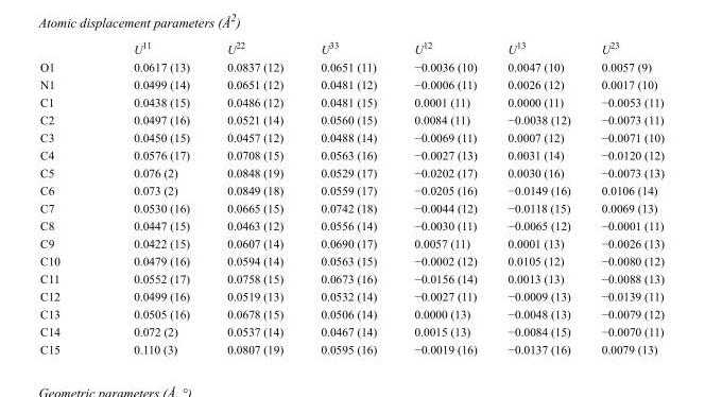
<table><thead><tr><td></td><td>U<sup>11</sup></td><td>U<sup>22</sup></td><td>U<sup>33</sup></td><td>U<sup>12</sup></td><td>U<sup>13</sup></td><td>U<sup>23</sup></td></tr></thead><tbody><tr><td>O1</td><td>0.0617 (13)</td><td>0.0837 (12)</td><td>0.0651 (11)</td><td>−0.0036 (10)</td><td>0.0047 (10)</td><td>0.0057 (9)</td></tr><tr><td>N1</td><td>0.0499 (14)</td><td>0.0651 (12)</td><td>0.0481 (12)</td><td>−0.0006 (11)</td><td>0.0026 (12)</td><td>0.0017 (10)</td></tr><tr><td>C1</td><td>0.0438 (15)</td><td>0.0486 (12)</td><td>0.0481 (15)</td><td>0.0001 (11)</td><td>0.0000 (11)</td><td>−0.0053 (11)</td></tr><tr><td>C2</td><td>0.0497 (16)</td><td>0.0521 (14)</td><td>0.0560 (15)</td><td>0.0084 (11)</td><td>−0.0038 (12)</td><td>−0.0073 (11)</td></tr><tr><td>C3</td><td>0.0450 (15)</td><td>0.0457 (12)</td><td>0.0488 (14)</td><td>−0.0069 (11)</td><td>0.0007 (12)</td><td>−0.0071 (10)</td></tr><tr><td>C4</td><td>0.0576 (17)</td><td>0.0708 (15)</td><td>0.0563 (16)</td><td>−0.0027 (13)</td><td>0.0031 (14)</td><td>−0.0120 (12)</td></tr><tr><td>C5</td><td>0.076 (2)</td><td>0.0848 (19)</td><td>0.0529 (17)</td><td>−0.0202 (17)</td><td>0.0030 (16)</td><td>−0.0073 (13)</td></tr><tr><td>C6</td><td>0.073 (2)</td><td>0.0849 (18)</td><td>0.0559 (17)</td><td>−0.0205 (16)</td><td>−0.0149 (16)</td><td>0.0106 (14)</td></tr><tr><td>C7</td><td>0.0530 (16)</td><td>0.0665 (15)</td><td>0.0742 (18)</td><td>−0.0044 (12)</td><td>−0.0118 (15)</td><td>0.0069 (13)</td></tr><tr><td>C8</td><td>0.0447 (15)</td><td>0.0463 (12)</td><td>0.0556 (14)</td><td>−0.0030 (11)</td><td>−0.0065 (12)</td><td>−0.0001 (11)</td></tr><tr><td>C9</td><td>0.0422 (15)</td><td>0.0607 (14)</td><td>0.0690 (17)</td><td>0.0057 (11)</td><td>0.0001 (13)</td><td>−0.0026 (13)</td></tr><tr><td>C10</td><td>0.0479 (16)</td><td>0.0594 (14)</td><td>0.0563 (15)</td><td>−0.0002 (12)</td><td>0.0105 (12)</td><td>−0.0080 (12)</td></tr><tr><td>C11</td><td>0.0552 (17)</td><td>0.0758 (15)</td><td>0.0673 (16)</td><td>−0.0156 (14)</td><td>0.0013 (13)</td><td>−0.0088 (13)</td></tr><tr><td>C12</td><td>0.0499 (16)</td><td>0.0519 (13)</td><td>0.0532 (14)</td><td>−0.0027 (11)</td><td>−0.0009 (13)</td><td>−0.0139 (11)</td></tr><tr><td>C13</td><td>0.0505 (16)</td><td>0.0678 (15)</td><td>0.0506 (14)</td><td>0.0000 (13)</td><td>−0.0048 (13)</td><td>−0.0079 (12)</td></tr><tr><td>C14</td><td>0.072 (2)</td><td>0.0537 (14)</td><td>0.0467 (14)</td><td>0.0015 (13)</td><td>−0.0084 (15)</td><td>−0.0070 (11)</td></tr><tr><td>C15</td><td>0.110 (3)</td><td>0.0807 (19)</td><td>0.0595 (16)</td><td>−0.0019 (16)</td><td>−0.0137 (16)</td><td>0.0079 (13)</td></tr></tbody></table>